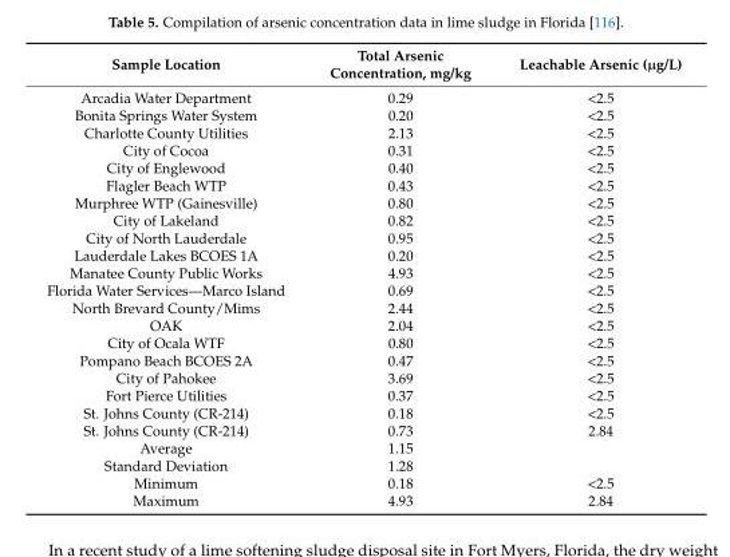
<table><thead><tr><td>Sample Location</td><td>Total Arsenic Concentration, mg/kg</td><td>Leachable Arsenic (µg/L)</td></tr></thead><tbody><tr><td>Arcadia Water Department</td><td>0.29</td><td>&lt;2.5</td></tr><tr><td>Bonita Springs Water System</td><td>0.20</td><td>&lt;2.5</td></tr><tr><td>Charlotte County Utilities</td><td>2.13</td><td>&lt;2.5</td></tr><tr><td>City of Cocoa</td><td>0.31</td><td>&lt;2.5</td></tr><tr><td>City of Englewood</td><td>0.40</td><td>&lt;2.5</td></tr><tr><td>Flagler Beach WTP</td><td>0.43</td><td>&lt;2.5</td></tr><tr><td>Murphree WTP (Gainesville)</td><td>0.80</td><td>&lt;2.5</td></tr><tr><td>City of Lakeland</td><td>0.82</td><td>&lt;2.5</td></tr><tr><td>City of North Lauderdale</td><td>0.95</td><td>&lt;2.5</td></tr><tr><td>Lauderdale Lakes BCOES 1A</td><td>0.20</td><td>&lt;2.5</td></tr><tr><td>Manatee County Public Works</td><td>4.93</td><td>&lt;2.5</td></tr><tr><td>Florida Water Services—Marco Island</td><td>0.69</td><td>&lt;2.5</td></tr><tr><td>North Brevard County/Mims</td><td>2.44</td><td>&lt;2.5</td></tr><tr><td>OAK</td><td>2.04</td><td>&lt;2.5</td></tr><tr><td>City of Ocala WTF</td><td>0.80</td><td>&lt;2.5</td></tr><tr><td>Pompano Beach BCOES 2A</td><td>0.47</td><td>&lt;2.5</td></tr><tr><td>City of Pahokee</td><td>3.69</td><td>&lt;2.5</td></tr><tr><td>Fort Pierce Utilities</td><td>0.37</td><td>&lt;2.5</td></tr><tr><td>St. Johns County (CR-214)</td><td>0.18</td><td>&lt;2.5</td></tr><tr><td>St. Johns County (CR-214)</td><td>0.73</td><td>2.84</td></tr><tr><td>Average</td><td>1.15</td><td></td></tr><tr><td>Standard Deviation</td><td>1.28</td><td></td></tr><tr><td>Minimum</td><td>0.18</td><td>&lt;2.5</td></tr><tr><td>Maximum</td><td>4.93</td><td>2.84</td></tr></tbody></table>